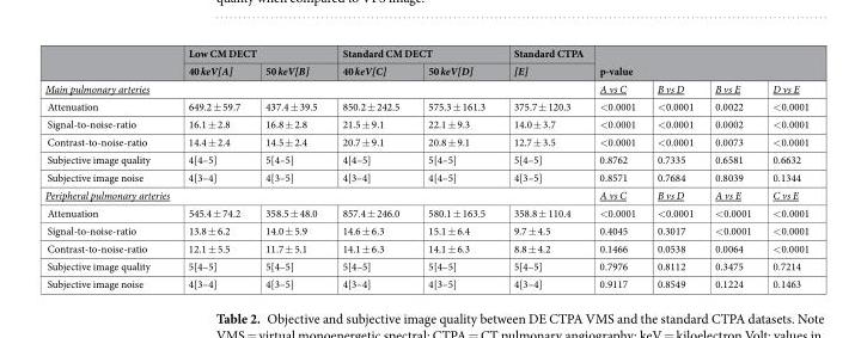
<table><thead><tr><td rowspan="2"></td><td colspan="2">Low CM DECT</td><td colspan="2">Standard CM DECT</td><td rowspan="2">Standard CTPA [E]</td><td rowspan="2" colspan="4">p-value</td></tr><tr><td>40 keV[A]</td><td>50 keV[B]</td><td>40 keV[C]</td><td>50 keV[D]</td></tr><tr><td colspan="6">Main pulmonary arteries</td><td>A vs C</td><td>B vs D</td><td>B vs E</td><td>D vs E</td></tr></thead><tbody><tr><td>Attenuation</td><td>649.2 ± 59.7</td><td>437.4 ± 39.5</td><td>850.2 ± 242.5</td><td>575.3 ± 161.3</td><td>375.7 ± 120.3</td><td>&lt;0.0001</td><td>&lt;0.0001</td><td>0.0022</td><td>&lt;0.0001</td></tr><tr><td>Signal-to-noise-ratio</td><td>16.1 ± 2.8</td><td>16.8 ± 2.8</td><td>21.5 ± 9.1</td><td>22.1 ± 9.3</td><td>14.0 ± 3.7</td><td>&lt;0.0001</td><td>&lt;0.0001</td><td>0.0002</td><td>&lt;0.0001</td></tr><tr><td>Contrast-to-noise-ratio</td><td>14.4 ± 2.4</td><td>14.5 ± 2.4</td><td>20.7 ± 9.1</td><td>20.8 ± 9.1</td><td>12.7 ± 3.5</td><td>&lt;0.0001</td><td>&lt;0.0001</td><td>0.0073</td><td>&lt;0.0001</td></tr><tr><td>Subjective image quality</td><td>4[4–5]</td><td>5[4–5]</td><td>4[4–5]</td><td>5[4–5]</td><td>5[4–5]</td><td>0.8762</td><td>0.7335</td><td>0.6581</td><td>0.6632</td></tr><tr><td>Subjective image noise</td><td>4[3–4]</td><td>4[3–5]</td><td>4[3–4]</td><td>4[4–5]</td><td>4[3–5]</td><td>0.8571</td><td>0.7684</td><td>0.8039</td><td>0.1344</td></tr><tr><td colspan="6">Peripheral pulmonary arteries</td><td>A vs C</td><td>B vs D</td><td>A vs E</td><td>C vs E</td></tr><tr><td>Attenuation</td><td>545.4 ± 74.2</td><td>358.5 ± 48.0</td><td>857.4 ± 246.0</td><td>580.1 ± 163.5</td><td>358.8 ± 110.4</td><td>&lt;0.0001</td><td>&lt;0.0001</td><td>&lt;0.0001</td><td>&lt;0.0001</td></tr><tr><td>Signal-to-noise-ratio</td><td>13.8 ± 6.2</td><td>14.0 ± 5.9</td><td>14.6 ± 6.3</td><td>15.1 ± 6.4</td><td>9.7 ± 4.5</td><td>0.4045</td><td>0.3017</td><td>&lt;0.0001</td><td>&lt;0.0001</td></tr><tr><td>Contrast-to-noise-ratio</td><td>12.1 ± 5.5</td><td>11.7 ± 5.1</td><td>14.1 ± 6.3</td><td>14.1 ± 6.3</td><td>8.8 ± 4.2</td><td>0.1466</td><td>0.0538</td><td>0.0064</td><td>&lt;0.0001</td></tr><tr><td>Subjective image quality</td><td>5[4–5]</td><td>5[4–5]</td><td>5[4–5]</td><td>5[4–5]</td><td>5[4–5]</td><td>0.7976</td><td>0.8112</td><td>0.3475</td><td>0.7214</td></tr><tr><td>Subjective image noise</td><td>4[3–4]</td><td>4[3–5]</td><td>4[3–4]</td><td>4[3–5]</td><td>4[3–4]</td><td>0.9117</td><td>0.8549</td><td>0.1224</td><td>0.1463</td></tr></tbody></table>